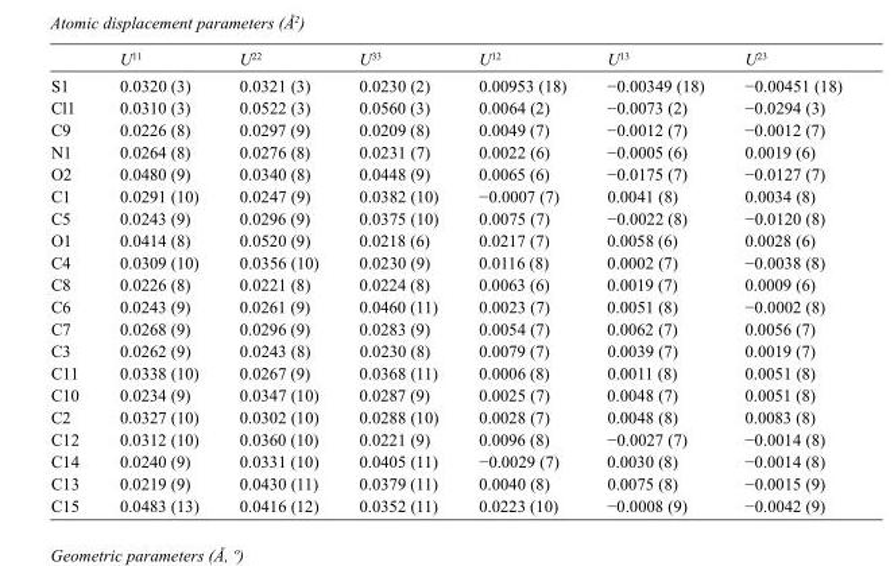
<table><thead><tr><td></td><td>U<sup>11</sup></td><td>U<sup>22</sup></td><td>U<sup>33</sup></td><td>U<sup>12</sup></td><td>U<sup>13</sup></td><td>U<sup>23</sup></td></tr></thead><tbody><tr><td>S1</td><td>0.0320 (3)</td><td>0.0321 (3)</td><td>0.0230 (2)</td><td>0.00953 (18)</td><td>−0.00349 (18)</td><td>−0.00451 (18)</td></tr><tr><td>Cl1</td><td>0.0310 (3)</td><td>0.0522 (3)</td><td>0.0560 (3)</td><td>0.0064 (2)</td><td>−0.0073 (2)</td><td>−0.0294 (3)</td></tr><tr><td>C9</td><td>0.0226 (8)</td><td>0.0297 (9)</td><td>0.0209 (8)</td><td>0.0049 (7)</td><td>−0.0012 (7)</td><td>−0.0012 (7)</td></tr><tr><td>N1</td><td>0.0264 (8)</td><td>0.0276 (8)</td><td>0.0231 (7)</td><td>0.0022 (6)</td><td>−0.0005 (6)</td><td>0.0019 (6)</td></tr><tr><td>O2</td><td>0.0480 (9)</td><td>0.0340 (8)</td><td>0.0448 (9)</td><td>0.0065 (6)</td><td>−0.0175 (7)</td><td>−0.0127 (7)</td></tr><tr><td>C1</td><td>0.0291 (10)</td><td>0.0247 (9)</td><td>0.0382 (10)</td><td>−0.0007 (7)</td><td>0.0041 (8)</td><td>0.0034 (8)</td></tr><tr><td>C5</td><td>0.0243 (9)</td><td>0.0296 (9)</td><td>0.0375 (10)</td><td>0.0075 (7)</td><td>−0.0022 (8)</td><td>−0.0120 (8)</td></tr><tr><td>O1</td><td>0.0414 (8)</td><td>0.0520 (9)</td><td>0.0218 (6)</td><td>0.0217 (7)</td><td>0.0058 (6)</td><td>0.0028 (6)</td></tr><tr><td>C4</td><td>0.0309 (10)</td><td>0.0356 (10)</td><td>0.0230 (9)</td><td>0.0116 (8)</td><td>0.0002 (7)</td><td>−0.0038 (8)</td></tr><tr><td>C8</td><td>0.0226 (8)</td><td>0.0221 (8)</td><td>0.0224 (8)</td><td>0.0063 (6)</td><td>0.0019 (7)</td><td>0.0009 (6)</td></tr><tr><td>C6</td><td>0.0243 (9)</td><td>0.0261 (9)</td><td>0.0460 (11)</td><td>0.0023 (7)</td><td>0.0051 (8)</td><td>−0.0002 (8)</td></tr><tr><td>C7</td><td>0.0268 (9)</td><td>0.0296 (9)</td><td>0.0283 (9)</td><td>0.0054 (7)</td><td>0.0062 (7)</td><td>0.0056 (7)</td></tr><tr><td>C3</td><td>0.0262 (9)</td><td>0.0243 (8)</td><td>0.0230 (8)</td><td>0.0079 (7)</td><td>0.0039 (7)</td><td>0.0019 (7)</td></tr><tr><td>C11</td><td>0.0338 (10)</td><td>0.0267 (9)</td><td>0.0368 (11)</td><td>0.0006 (8)</td><td>0.0011 (8)</td><td>0.0051 (8)</td></tr><tr><td>C10</td><td>0.0234 (9)</td><td>0.0347 (10)</td><td>0.0287 (9)</td><td>0.0025 (7)</td><td>0.0048 (7)</td><td>0.0051 (8)</td></tr><tr><td>C2</td><td>0.0327 (10)</td><td>0.0302 (10)</td><td>0.0288 (10)</td><td>0.0028 (7)</td><td>0.0048 (8)</td><td>0.0083 (8)</td></tr><tr><td>C12</td><td>0.0312 (10)</td><td>0.0360 (10)</td><td>0.0221 (9)</td><td>0.0096 (8)</td><td>−0.0027 (7)</td><td>−0.0014 (8)</td></tr><tr><td>C14</td><td>0.0240 (9)</td><td>0.0331 (10)</td><td>0.0405 (11)</td><td>−0.0029 (7)</td><td>0.0030 (8)</td><td>−0.0014 (8)</td></tr><tr><td>C13</td><td>0.0219 (9)</td><td>0.0430 (11)</td><td>0.0379 (11)</td><td>0.0040 (8)</td><td>0.0075 (8)</td><td>−0.0015 (9)</td></tr><tr><td>C15</td><td>0.0483 (13)</td><td>0.0416 (12)</td><td>0.0352 (11)</td><td>0.0223 (10)</td><td>−0.0008 (9)</td><td>−0.0042 (9)</td></tr></tbody></table>